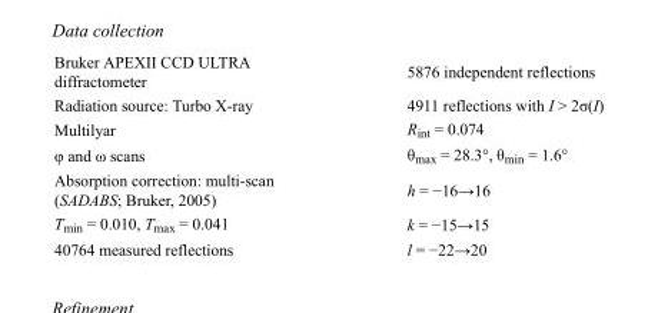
<table><tbody><tr><td>Bruker APEXII CCD ULTRA diffractometer</td><td>5876 independent reflections</td></tr><tr><td>Radiation source: Turbo X-ray</td><td>4911 reflections with I &gt; 2σ(I)</td></tr><tr><td>Multilyar</td><td>R<sub>int</sub> = 0.074</td></tr><tr><td>φ and ω scans</td><td>θ<sub>max</sub> = 28.3°, θ<sub>min</sub> = 1.6°</td></tr><tr><td>Absorption correction: multi-scan (SADABS; Bruker, 2005)</td><td>h = −16→16</td></tr><tr><td>T<sub>min</sub> = 0.010, T<sub>max</sub> = 0.041</td><td>k = −15→15</td></tr><tr><td>40764 measured reflections</td><td>l = −22→20</td></tr></tbody></table>